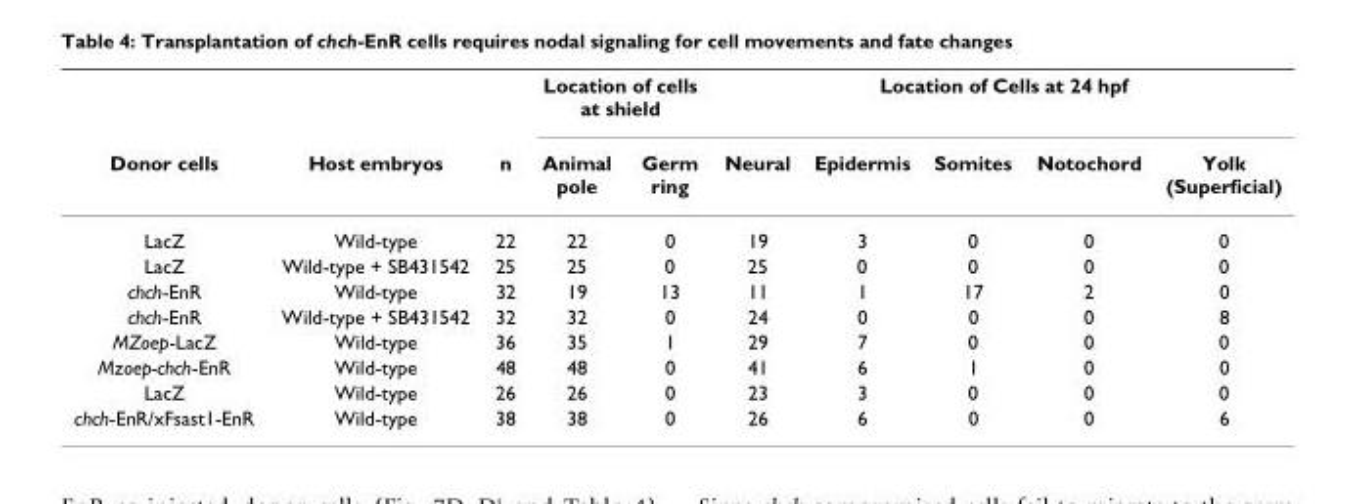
<table><thead><tr><td rowspan="2">Donor cells</td><td rowspan="2">Host embryos</td><td rowspan="2">n</td><td colspan="2">Location of cells at shield</td><td colspan="5">Location of Cells at 24 hpf</td></tr><tr><td>Animal pole</td><td>Germ ring</td><td>Neural</td><td>Epidermis</td><td>Somites</td><td>Notochord</td><td>Yolk (Superficial)</td></tr></thead><tbody><tr><td>LacZ</td><td>Wild-type</td><td>22</td><td>22</td><td>0</td><td>19</td><td>3</td><td>0</td><td>0</td><td>0</td></tr><tr><td>LacZ</td><td>Wild-type + SB431542</td><td>25</td><td>25</td><td>0</td><td>25</td><td>0</td><td>0</td><td>0</td><td>0</td></tr><tr><td>chch-EnR</td><td>Wild-type</td><td>32</td><td>19</td><td>13</td><td>11</td><td>1</td><td>17</td><td>2</td><td>0</td></tr><tr><td>chch-EnR</td><td>Wild-type + SB431542</td><td>32</td><td>32</td><td>0</td><td>24</td><td>0</td><td>0</td><td>0</td><td>8</td></tr><tr><td>MZoep-LacZ</td><td>Wild-type</td><td>36</td><td>35</td><td>1</td><td>29</td><td>7</td><td>0</td><td>0</td><td>0</td></tr><tr><td>Mzoep-chch-EnR</td><td>Wild-type</td><td>48</td><td>48</td><td>0</td><td>41</td><td>6</td><td>1</td><td>0</td><td>0</td></tr><tr><td>LacZ</td><td>Wild-type</td><td>26</td><td>26</td><td>0</td><td>23</td><td>3</td><td>0</td><td>0</td><td>0</td></tr><tr><td>chch-EnR/xFsast1-EnR</td><td>Wild-type</td><td>38</td><td>38</td><td>0</td><td>26</td><td>6</td><td>0</td><td>0</td><td>6</td></tr></tbody></table>